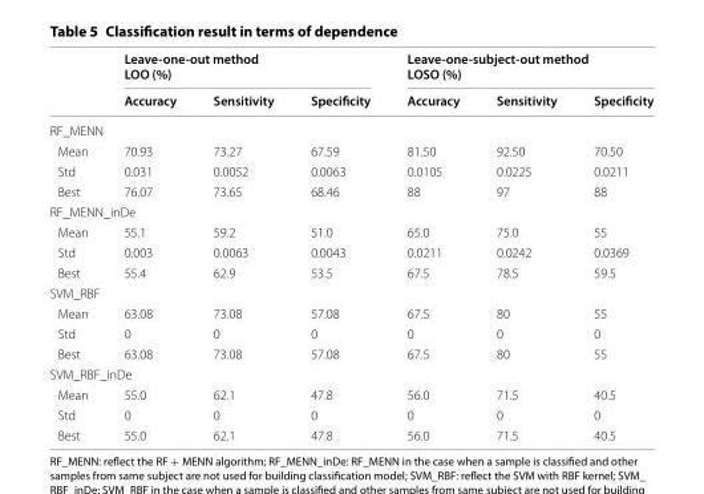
<table><thead><tr><td rowspan="2"></td><td colspan="3">Leave‑one‑out method LOO (%)</td><td colspan="3">Leave‑one‑subject‑out method LOSO (%)</td></tr><tr><td>Accuracy</td><td>Sensitivity</td><td>Specificity</td><td>Accuracy</td><td>Sensitivity</td><td>Specificity</td></tr></thead><tbody><tr><td colspan="7">RF_MENN</td></tr><tr><td>Mean</td><td>70.93</td><td>73.27</td><td>67.59</td><td>81.50</td><td>92.50</td><td>70.50</td></tr><tr><td>Std</td><td>0.031</td><td>0.0052</td><td>0.0063</td><td>0.0105</td><td>0.0225</td><td>0.0211</td></tr><tr><td>Best</td><td>76.07</td><td>73.65</td><td>68.46</td><td>88</td><td>97</td><td>88</td></tr><tr><td colspan="7">RF_MENN_inDe</td></tr><tr><td>Mean</td><td>55.1</td><td>59.2</td><td>51.0</td><td>65.0</td><td>75.0</td><td>55</td></tr><tr><td>Std</td><td>0.003</td><td>0.0063</td><td>0.0043</td><td>0.0211</td><td>0.0242</td><td>0.0369</td></tr><tr><td>Best</td><td>55.4</td><td>62.9</td><td>53.5</td><td>67.5</td><td>78.5</td><td>59.5</td></tr><tr><td colspan="7">SVM_RBF</td></tr><tr><td>Mean</td><td>63.08</td><td>73.08</td><td>57.08</td><td>67.5</td><td>80</td><td>55</td></tr><tr><td>Std</td><td>0</td><td>0</td><td>0</td><td>0</td><td>0</td><td>0</td></tr><tr><td>Best</td><td>63.08</td><td>73.08</td><td>57.08</td><td>67.5</td><td>80</td><td>55</td></tr><tr><td colspan="7">SVM_RBF_inDe</td></tr><tr><td>Mean</td><td>55.0</td><td>62.1</td><td>47.8</td><td>56.0</td><td>71.5</td><td>40.5</td></tr><tr><td>Std</td><td>0</td><td>0</td><td>0</td><td>0</td><td>0</td><td>0</td></tr><tr><td>Best</td><td>55.0</td><td>62.1</td><td>47.8</td><td>56.0</td><td>71.5</td><td>40.5</td></tr></tbody></table>